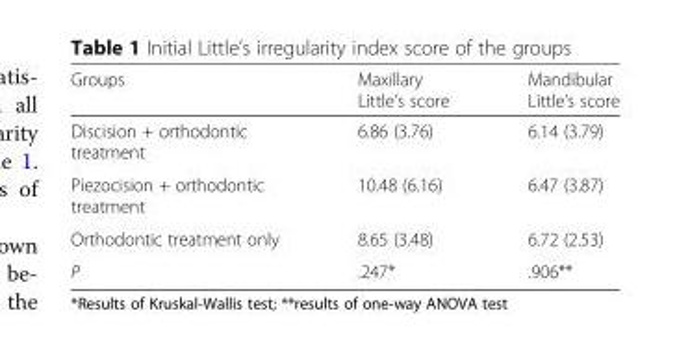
<table><thead><tr><td>Groups</td><td>Maxillary Little’s score</td><td>Mandibular Little’s score</td></tr></thead><tbody><tr><td>Discision + orthodontic treatment</td><td>6.86 (3.76)</td><td>6.14 (3.79)</td></tr><tr><td>Piezocision + orthodontic treatment</td><td>10.48 (6.16)</td><td>6.47 (3.87)</td></tr><tr><td>Orthodontic treatment only</td><td>8.65 (3.48)</td><td>6.72 (2.53)</td></tr><tr><td>P</td><td>.247*</td><td>.906**</td></tr></tbody></table>